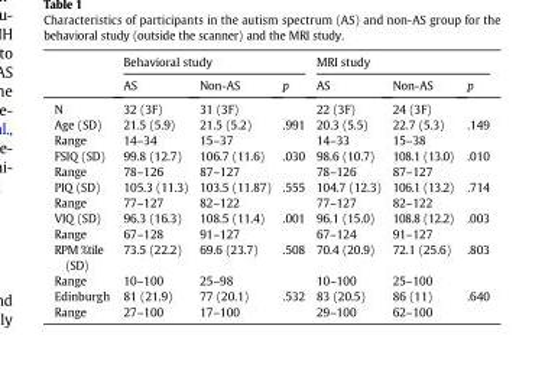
<table><thead><tr><td rowspan="2"></td><td colspan="3">Behavioral study</td><td colspan="3">MRI study</td></tr><tr><td>AS</td><td>Non-AS</td><td>p</td><td>AS</td><td>Non-AS</td><td>p</td></tr></thead><tbody><tr><td>N</td><td>32 (3F)</td><td>31 (3F)</td><td></td><td>22 (3F)</td><td>24 (3F)</td><td></td></tr><tr><td>Age (SD)</td><td>21.5 (5.9)</td><td>21.5 (5.2)</td><td>.991</td><td>20.3 (5.5)</td><td>22.7 (5.3)</td><td>.149</td></tr><tr><td>Range</td><td>14–34</td><td>15–37</td><td></td><td>14–33</td><td>15–38</td><td></td></tr><tr><td>FSIQ (SD)</td><td>99.8 (12.7)</td><td>106.7 (11.6)</td><td>.030</td><td>98.6 (10.7)</td><td>108.1 (13.0)</td><td>.010</td></tr><tr><td>Range</td><td>78–126</td><td>87–127</td><td></td><td>78–126</td><td>87–127</td><td></td></tr><tr><td>PIQ (SD)</td><td>105.3 (11.3)</td><td>103.5 (11.87)</td><td>.555</td><td>104.7 (12.3)</td><td>106.1 (13.2)</td><td>.714</td></tr><tr><td>Range</td><td>77–127</td><td>82–122</td><td></td><td>77–127</td><td>82–122</td><td></td></tr><tr><td>VIQ (SD)</td><td>96.3 (16.3)</td><td>108.5 (11.4)</td><td>.001</td><td>96.1 (15.0)</td><td>108.8 (12.2)</td><td>.003</td></tr><tr><td>Range</td><td>67–128</td><td>91–127</td><td></td><td>67–124</td><td>91–127</td><td></td></tr><tr><td>RPM %tile (SD)</td><td>73.5 (22.2)</td><td>69.6 (23.7)</td><td>.508</td><td>70.4 (20.9)</td><td>72.1 (25.6)</td><td>.803</td></tr><tr><td>Range</td><td>10–100</td><td>25–98</td><td></td><td>10–100</td><td>25–100</td><td></td></tr><tr><td>Edinburgh</td><td>81 (21.9)</td><td>77 (20.1)</td><td>.532</td><td>83 (20.5)</td><td>86 (11)</td><td>.640</td></tr><tr><td>Range</td><td>27–100</td><td>17–100</td><td></td><td>29–100</td><td>62–100</td><td></td></tr></tbody></table>